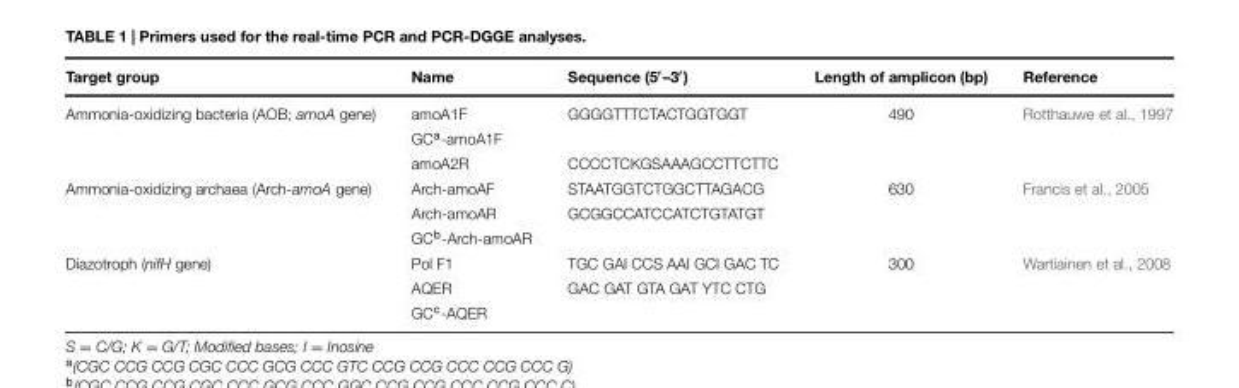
<table><thead><tr><td>Target group</td><td>Name</td><td>Sequence (5′–3′)</td><td>Length of amplicon (bp)</td><td>Reference</td></tr></thead><tbody><tr><td rowspan="3">Ammonia-oxidizing bacteria (AOB; amoA gene)</td><td>amoA1F</td><td>GGGGTTTCTACTGGTGGT</td><td>490</td><td>Rotthauwe et al., 1997</td></tr><tr><td>GC<sup>a</sup>-amoA1F</td><td></td><td></td><td></td></tr><tr><td>amoA2R</td><td>CCCCTCKGSAAAGCCTTCTTC</td><td></td><td></td></tr><tr><td rowspan="3">Ammonia-oxidizing archaea (Arch-amoA gene)</td><td>Arch-amoAF</td><td>STAATGGTCTGGCTTAGACG</td><td>630</td><td>Francis et al., 2005</td></tr><tr><td>Arch-amoAR</td><td>GCGGCCATCCATCTGTATGT</td><td></td><td></td></tr><tr><td>GC<sup>b</sup>-Arch-amoAR</td><td></td><td></td><td></td></tr><tr><td rowspan="3">Diazotroph (nifH gene)</td><td>Pol F1</td><td>TGC GAI CCS AAI GCI GAC TC</td><td>300</td><td>Wartiainen et al., 2008</td></tr><tr><td>AQER</td><td>GAC GAT GTA GAT YTC CTG</td><td></td><td></td></tr><tr><td>GC<sup>c</sup>-AQER</td><td></td><td></td><td></td></tr></tbody></table>